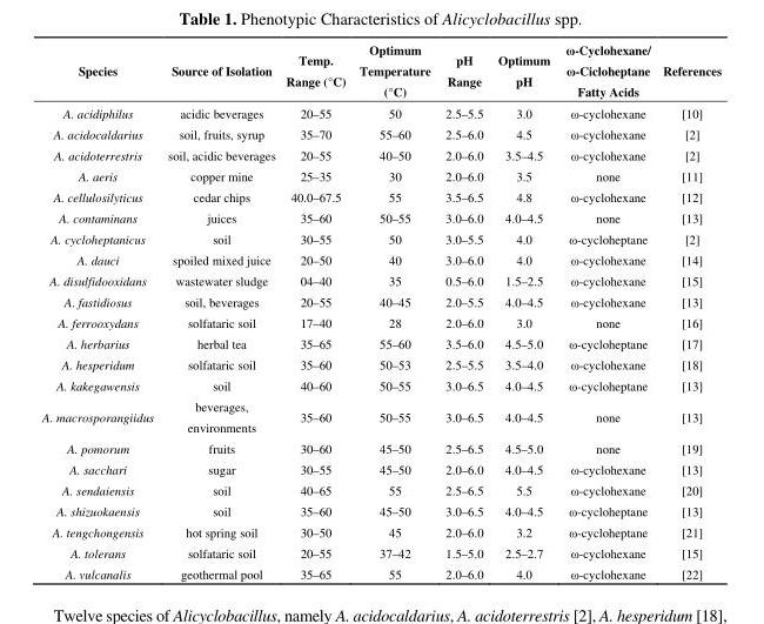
<table><thead><tr><td>Species</td><td>Source of Isolation</td><td>Temp. Range (°C)</td><td>Optimum Temperature (°C)</td><td>pH Range</td><td>Optimum pH</td><td>ω-Cyclohexane/ ω-Cicloheptane Fatty Acids</td><td>References</td></tr></thead><tbody><tr><td>A. acidiphilus</td><td>acidic beverages</td><td>20–55</td><td>50</td><td>2.5–5.5</td><td>3.0</td><td>ω-cyclohexane</td><td>[10]</td></tr><tr><td>A. acidocaldarius</td><td>soil, fruits, syrup</td><td>35–70</td><td>55–60</td><td>2.5–6.0</td><td>4.5</td><td>ω-cyclohexane</td><td>[2]</td></tr><tr><td>A. acidoterrestris</td><td>soil, acidic beverages</td><td>20–55</td><td>40–50</td><td>2.0–6.0</td><td>3.5–4.5</td><td>ω-cyclohexane</td><td>[2]</td></tr><tr><td>A. aeris</td><td>copper mine</td><td>25–35</td><td>30</td><td>2.0–6.0</td><td>3.5</td><td>none</td><td>[11]</td></tr><tr><td>A. cellulosilyticus</td><td>cedar chips</td><td>40.0–67.5</td><td>55</td><td>3.5–6.5</td><td>4.8</td><td>ω-cyclohexane</td><td>[12]</td></tr><tr><td>A. contaminans</td><td>juices</td><td>35–60</td><td>50–55</td><td>3.0–6.0</td><td>4.0–4.5</td><td>none</td><td>[13]</td></tr><tr><td>A. cycloheptanicus</td><td>soil</td><td>30–55</td><td>50</td><td>3.0–5.5</td><td>4.0</td><td>ω-cycloheptane</td><td>[2]</td></tr><tr><td>A. dauci</td><td>spoiled mixed juice</td><td>20–50</td><td>40</td><td>3.0–6.0</td><td>4.0</td><td>ω-cyclohexane</td><td>[14]</td></tr><tr><td>A. disulfidooxidans</td><td>wastewater sludge</td><td>04–40</td><td>35</td><td>0.5–6.0</td><td>1.5–2.5</td><td>ω-cyclohexane</td><td>[15]</td></tr><tr><td>A. fastidiosus</td><td>soil, beverages</td><td>20–55</td><td>40–45</td><td>2.0–5.5</td><td>4.0–4.5</td><td>ω-cyclohexane</td><td>[13]</td></tr><tr><td>A. ferrooxydans</td><td>solfataric soil</td><td>17–40</td><td>28</td><td>2.0–6.0</td><td>3.0</td><td>none</td><td>[16]</td></tr><tr><td>A. herbarius</td><td>herbal tea</td><td>35–65</td><td>55–60</td><td>3.5–6.0</td><td>4.5–5.0</td><td>ω-cycloheptane</td><td>[17]</td></tr><tr><td>A. hesperidum</td><td>solfataric soil</td><td>35–60</td><td>50–53</td><td>2.5–5.5</td><td>3.5–4.0</td><td>ω-cyclohexane</td><td>[18]</td></tr><tr><td>A. kakegawensis</td><td>soil</td><td>40–60</td><td>50–55</td><td>3.0–6.5</td><td>4.0–4.5</td><td>ω-cycloheptane</td><td>[13]</td></tr><tr><td>A. macrosporangiidus</td><td>beverages, environments</td><td>35–60</td><td>50–55</td><td>3.0–6.5</td><td>4.0–4.5</td><td>none</td><td>[13]</td></tr><tr><td>A. pomorum</td><td>fruits</td><td>30–60</td><td>45–50</td><td>2.5–6.5</td><td>4.5–5.0</td><td>none</td><td>[19]</td></tr><tr><td>A. sacchari</td><td>sugar</td><td>30–55</td><td>45–50</td><td>2.0–6.0</td><td>4.0–4.5</td><td>ω-cyclohexane</td><td>[13]</td></tr><tr><td>A. sendaiensis</td><td>soil</td><td>40–65</td><td>55</td><td>2.5–6.5</td><td>5.5</td><td>ω-cyclohexane</td><td>[20]</td></tr><tr><td>A. shizuokaensis</td><td>soil</td><td>35–60</td><td>45–50</td><td>3.0–6.5</td><td>4.0–4.5</td><td>ω-cycloheptane</td><td>[13]</td></tr><tr><td>A. tengchongensis</td><td>hot spring soil</td><td>30–50</td><td>45</td><td>2.0–6.0</td><td>3.2</td><td>ω-cycloheptane</td><td>[21]</td></tr><tr><td>A. tolerans</td><td>solfataric soil</td><td>20–55</td><td>37–42</td><td>1.5–5.0</td><td>2.5–2.7</td><td>ω-cyclohexane</td><td>[15]</td></tr><tr><td>A. vulcanalis</td><td>geothermal pool</td><td>35–65</td><td>55</td><td>2.0–6.0</td><td>4.0</td><td>ω-cyclohexane</td><td>[22]</td></tr></tbody></table>